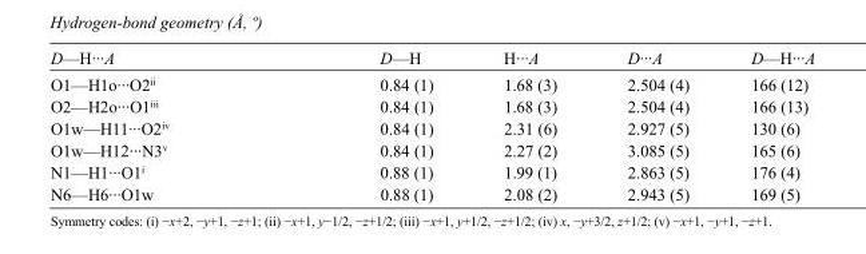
<table><tbody><tr><td>D—H···A</td><td>D—H</td><td>H···A</td><td>D···A</td><td>D—H···A</td></tr><tr><td>O1—H1o···O2<sup>ii</sup></td><td>0.84 (1)</td><td>1.68 (3)</td><td>2.504 (4)</td><td>166 (12)</td></tr><tr><td>O2—H2o···O1<sup>iii</sup></td><td>0.84 (1)</td><td>1.68 (3)</td><td>2.504 (4)</td><td>166 (13)</td></tr><tr><td>O1w—H11···O2<sup>iv</sup></td><td>0.84 (1)</td><td>2.31 (6)</td><td>2.927 (5)</td><td>130 (6)</td></tr><tr><td>O1w—H12···N3<sup>v</sup></td><td>0.84 (1)</td><td>2.27 (2)</td><td>3.085 (5)</td><td>165 (6)</td></tr><tr><td>N1—H1···O1<sup>i</sup></td><td>0.88 (1)</td><td>1.99 (1)</td><td>2.863 (5)</td><td>176 (4)</td></tr><tr><td>N6—H6···O1w</td><td>0.88 (1)</td><td>2.08 (2)</td><td>2.943 (5)</td><td>169 (5)</td></tr></tbody></table>